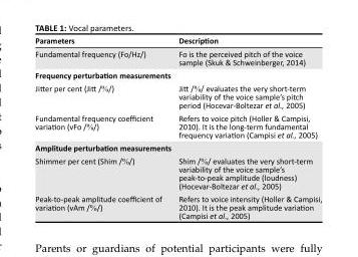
<table><thead><tr><td>Parameters</td><td>Description</td></tr></thead><tbody><tr><td>Fundamental frequency (Fo/Hz/)</td><td>Fo is the perceived pitch of the voice sample (Skuk &amp; Schweinberger, 2014)</td></tr><tr><td colspan="2">Frequency perturbation measurements</td></tr><tr><td>Jitter per cent (Jitt /%/)</td><td>Jitt /%/ evaluates the very short-term variability of the voice sample’s pitch period (Hocevar-Boltezar et al., 2005)</td></tr><tr><td>Fundamental frequency coefficient variation (vFo /%/)</td><td>Refers to voice pitch (Holler &amp; Campisi, 2010). It is the long-term fundamental frequency variation (Campisi et al., 2005)</td></tr><tr><td colspan="2">Amplitude perturbation measurements</td></tr><tr><td>Shimmer per cent (Shim /%/)</td><td>Shim /%/ evaluates the very short-term variability of the voice sample’s peak-to-peak amplitude (loudness) (Hocevar-Boltezar et al., 2005)</td></tr><tr><td>Peak-to-peak amplitude coefficient of variation (vAm /%/)</td><td>Refers to voice intensity (Holler &amp; Campisi, 2010). It is the peak amplitude variation (Campisi et al., 2005)</td></tr></tbody></table>